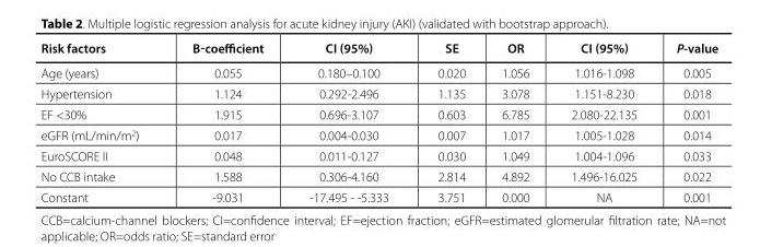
<table><thead><tr><td>Risk factors</td><td>β-coefficient</td><td>CI (95%)</td><td>SE</td><td>OR</td><td>CI (95%)</td><td>P-value</td></tr></thead><tbody><tr><td>Age (years)</td><td>0.055</td><td>0.180–0.100</td><td>0.020</td><td>1.056</td><td>1.016-1.098</td><td>0.005</td></tr><tr><td>Hypertension</td><td>1.124</td><td>0.292-2.496</td><td>1.135</td><td>3.078</td><td>1.151-8.230</td><td>0.018</td></tr><tr><td>EF &lt;30%</td><td>1.915</td><td>0.696-3.107</td><td>0.603</td><td>6.785</td><td>2.080-22.135</td><td>0.001</td></tr><tr><td>eGFR (mL/min/m<sup>2</sup>)</td><td>0.017</td><td>0.004-0.030</td><td>0.007</td><td>1.017</td><td>1.005-1.028</td><td>0.014</td></tr><tr><td>EuroSCORE II</td><td>0.048</td><td>0.011-0.127</td><td>0.030</td><td>1.049</td><td>1.004-1.096</td><td>0.033</td></tr><tr><td>No CCB intake</td><td>1.588</td><td>0.306-4.160</td><td>2.814</td><td>4.892</td><td>1.496-16.025</td><td>0.022</td></tr><tr><td>Constant</td><td>-9.031</td><td>-17.495 - -5.333</td><td>3.751</td><td>0.000</td><td>NA</td><td>0.001</td></tr></tbody></table>